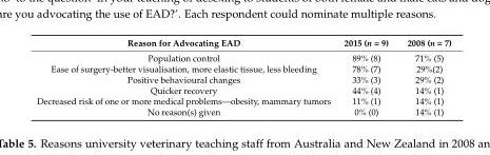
<table><thead><tr><td>Reason for Advocating EAD</td><td>2015 (n = 9)</td><td>2008 (n = 7)</td></tr></thead><tbody><tr><td>Population control</td><td>89% (8)</td><td>71% (5)</td></tr><tr><td>Ease of surgery-better visualisation, more elastic tissue, less bleeding</td><td>78% (7)</td><td>29%(2)</td></tr><tr><td>Positive behavioural changes</td><td>33% (3)</td><td>29% (2)</td></tr><tr><td>Quicker recovery</td><td>44% (4)</td><td>14% (1)</td></tr><tr><td>Decreased risk of one or more medical problems—obesity, mammary tumors</td><td>11% (1)</td><td>14% (1)</td></tr><tr><td>No reason(s) given</td><td>0% (0)</td><td>14% (1)</td></tr></tbody></table>